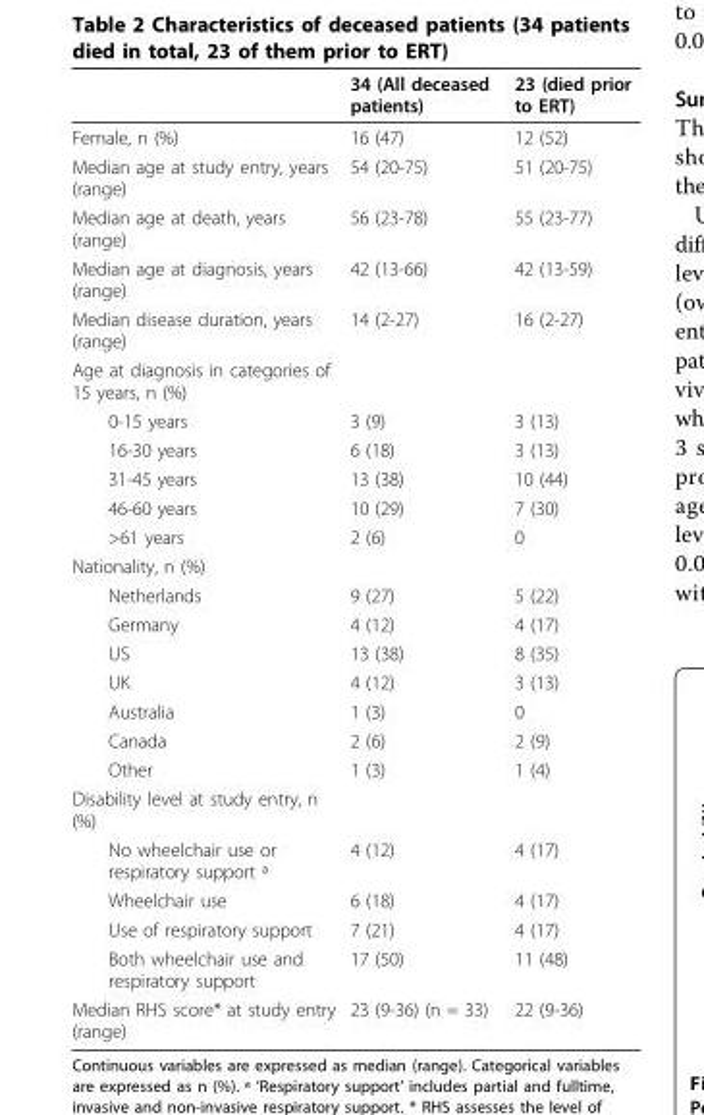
<table><thead><tr><td></td><td>34 (All deceased patients)</td><td>23 (died prior to ERT)</td></tr></thead><tbody><tr><td>Female, n (%)</td><td>16 (47)</td><td>12 (52)</td></tr><tr><td>Median age at study entry, years (range)</td><td>54 (20-75)</td><td>51 (20-75)</td></tr><tr><td>Median age at death, years (range)</td><td>56 (23-78)</td><td>55 (23-77)</td></tr><tr><td>Median age at diagnosis, years (range)</td><td>42 (13-66)</td><td>42 (13-59)</td></tr><tr><td>Median disease duration, years (range)</td><td>14 (2-27)</td><td>16 (2-27)</td></tr><tr><td colspan="3">Age at diagnosis in categories of 15 years, n (%)</td></tr><tr><td>0-15 years</td><td>3 (9)</td><td>3 (13)</td></tr><tr><td>16-30 years</td><td>6 (18)</td><td>3 (13)</td></tr><tr><td>31-45 years</td><td>13 (38)</td><td>10 (44)</td></tr><tr><td>46-60 years</td><td>10 (29)</td><td>7 (30)</td></tr><tr><td>&gt;61 years</td><td>2 (6)</td><td>0</td></tr><tr><td colspan="3">Nationality, n (%)</td></tr><tr><td>Netherlands</td><td>9 (27)</td><td>5 (22)</td></tr><tr><td>Germany</td><td>4 (12)</td><td>4 (17)</td></tr><tr><td>US</td><td>13 (38)</td><td>8 (35)</td></tr><tr><td>UK</td><td>4 (12)</td><td>3 (13)</td></tr><tr><td>Australia</td><td>1 (3)</td><td>0</td></tr><tr><td>Canada</td><td>2 (6)</td><td>2 (9)</td></tr><tr><td>Other</td><td>1 (3)</td><td>1 (4)</td></tr><tr><td colspan="3">Disability level at study entry, n (%)</td></tr><tr><td>No wheelchair use or respiratory support ª</td><td>4 (12)</td><td>4 (17)</td></tr><tr><td>Wheelchair use</td><td>6 (18)</td><td>4 (17)</td></tr><tr><td>Use of respiratory support</td><td>7 (21)</td><td>4 (17)</td></tr><tr><td>Both wheelchair use and respiratory support</td><td>17 (50)</td><td>11 (48)</td></tr><tr><td>Median RHS score* at study entry (range)</td><td>23 (9-36) (n = 33)</td><td>22 (9-36)</td></tr></tbody></table>